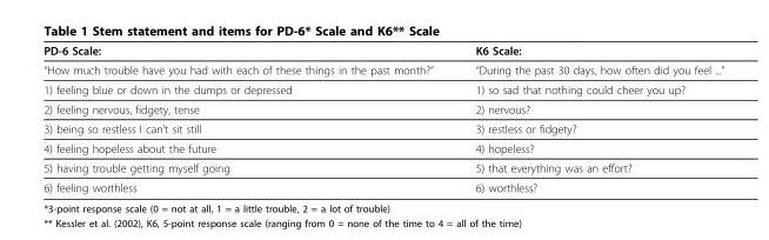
<table><thead><tr><td>PD-6 Scale:</td><td>K6 Scale:</td></tr></thead><tbody><tr><td>“How much trouble have you had with each of these things in the past month?”</td><td>“During the past 30 days, how often did you feel ...”</td></tr><tr><td>1) feeling blue or down in the dumps or depressed</td><td>1) so sad that nothing could cheer you up?</td></tr><tr><td>2) feeling nervous, fidgety, tense</td><td>2) nervous?</td></tr><tr><td>3) being so restless I can’t sit still</td><td>3) restless or fidgety?</td></tr><tr><td>4) feeling hopeless about the future</td><td>4) hopeless?</td></tr><tr><td>5) having trouble getting myself going</td><td>5) that everything was an effort?</td></tr><tr><td>6) feeling worthless</td><td>6) worthless?</td></tr></tbody></table>